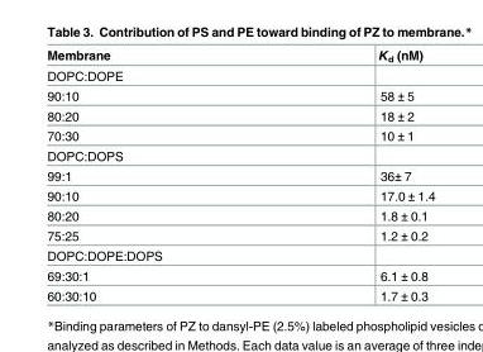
<table><thead><tr><td>Membrane</td><td>K<sub>d</sub> (nM)</td></tr></thead><tbody><tr><td colspan="2">DOPC:DOPE</td></tr><tr><td>90:10</td><td>58 ± 5</td></tr><tr><td>80:20</td><td>18 ± 2</td></tr><tr><td>70:30</td><td>10 ± 1</td></tr><tr><td colspan="2">DOPC:DOPS</td></tr><tr><td>99:1</td><td>36± 7</td></tr><tr><td>90:10</td><td>17.0 ± 1.4</td></tr><tr><td>80:20</td><td>1.8 ± 0.1</td></tr><tr><td>75:25</td><td>1.2 ± 0.2</td></tr><tr><td colspan="2">DOPC:DOPE:DOPS</td></tr><tr><td>69:30:1</td><td>6.1 ± 0.8</td></tr><tr><td>60:30:10</td><td>1.7 ± 0.3</td></tr></tbody></table>